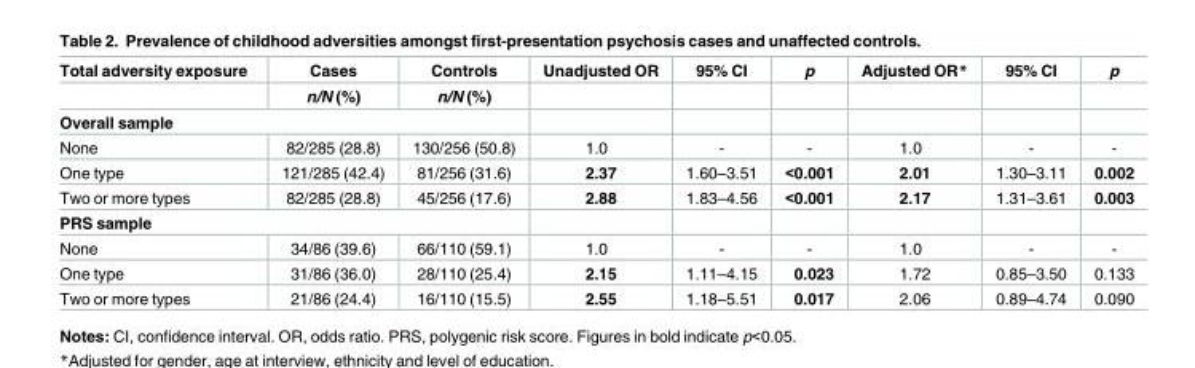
<table><thead><tr><td rowspan="2">Total adversity exposure</td><td rowspan="2">Cases n/N (%)</td><td rowspan="2">Controls n/N (%)</td><td rowspan="2">Unadjusted OR</td><td rowspan="2">95% CI</td><td rowspan="2">p</td><td rowspan="2">Adjusted OR*</td><td rowspan="2">95% CI</td><td rowspan="2">p</td></tr><tr></tr></thead><tbody><tr><td colspan="9">Overall sample</td></tr><tr><td>None</td><td>82/285 (28.8)</td><td>130/256 (50.8)</td><td>1.0</td><td>-</td><td>-</td><td>1.0</td><td>-</td><td>-</td></tr><tr><td>One type</td><td>121/285 (42.4)</td><td>81/256 (31.6)</td><td>2.37</td><td>1.60–3.51</td><td>&lt;0.001</td><td>2.01</td><td>1.30–3.11</td><td>0.002</td></tr><tr><td>Two or more types</td><td>82/285 (28.8)</td><td>45/256 (17.6)</td><td>2.88</td><td>1.83–4.56</td><td>&lt;0.001</td><td>2.17</td><td>1.31–3.61</td><td>0.003</td></tr><tr><td colspan="9">PRS sample</td></tr><tr><td>None</td><td>34/86 (39.6)</td><td>66/110 (59.1)</td><td>1.0</td><td>-</td><td>-</td><td>1.0</td><td>-</td><td>-</td></tr><tr><td>One type</td><td>31/86 (36.0)</td><td>28/110 (25.4)</td><td>2.15</td><td>1.11–4.15</td><td>0.023</td><td>1.72</td><td>0.85–3.50</td><td>0.133</td></tr><tr><td>Two or more types</td><td>21/86 (24.4)</td><td>16/110 (15.5)</td><td>2.55</td><td>1.18–5.51</td><td>0.017</td><td>2.06</td><td>0.89–4.74</td><td>0.090</td></tr></tbody></table>